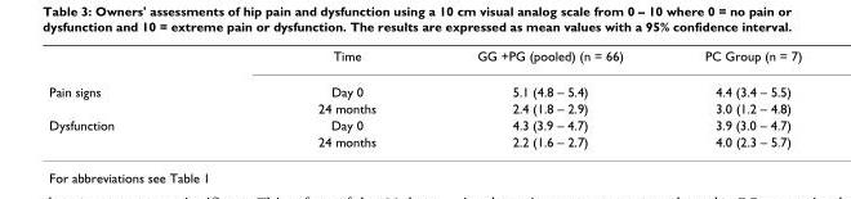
<table><thead><tr><td></td><td>Time</td><td>GG +PG (pooled) (n = 66)</td><td>PC Group (n = 7)</td></tr></thead><tbody><tr><td rowspan="2">Pain signs</td><td>Day 0</td><td>5.1 (4.8 – 5.4)</td><td>4.4 (3.4 – 5.5)</td></tr><tr><td>24 months</td><td>2.4 (1.8 – 2.9)</td><td>3.0 (1.2 – 4.8)</td></tr><tr><td rowspan="2">Dysfunction</td><td>Day 0</td><td>4.3 (3.9 – 4.7)</td><td>3.9 (3.0 – 4.7)</td></tr><tr><td>24 months</td><td>2.2 (1.6 – 2.7)</td><td>4.0 (2.3 – 5.7)</td></tr></tbody></table>